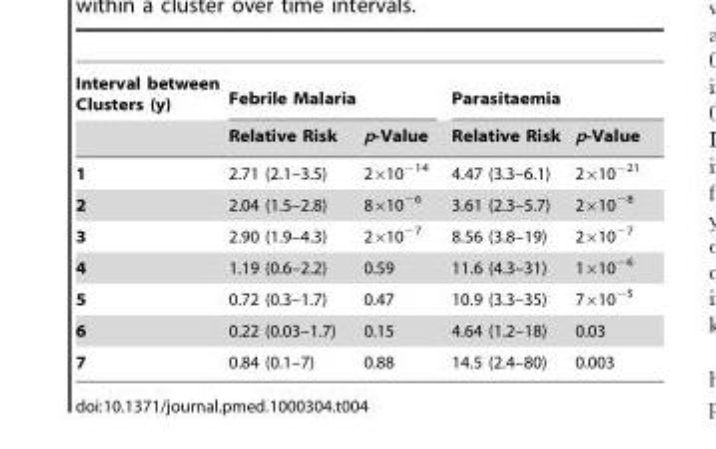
<table><thead><tr><td rowspan="2">Interval between Clusters (y)</td><td colspan="2">Febrile Malaria</td><td colspan="2">Parasitaemia</td></tr><tr><td>Relative Risk</td><td>p-Value</td><td>Relative Risk</td><td>p-Value</td></tr></thead><tbody><tr><td>1</td><td>2.71 (2.1–3.5)</td><td>2×10<sup>−14</sup></td><td>4.47 (3.3–6.1)</td><td>2×10<sup>−21</sup></td></tr><tr><td>2</td><td>2.04 (1.5–2.8)</td><td>8×10<sup>−6</sup></td><td>3.61 (2.3–5.7)</td><td>2×10<sup>−8</sup></td></tr><tr><td>3</td><td>2.90 (1.9–4.3)</td><td>2×10<sup>−7</sup></td><td>8.56 (3.8–19)</td><td>2×10<sup>−7</sup></td></tr><tr><td>4</td><td>1.19 (0.6–2.2)</td><td>0.59</td><td>11.6 (4.3–31)</td><td>1×10<sup>−6</sup></td></tr><tr><td>5</td><td>0.72 (0.3–1.7)</td><td>0.47</td><td>10.9 (3.3–35)</td><td>7×10<sup>−5</sup></td></tr><tr><td>6</td><td>0.22 (0.03–1.7)</td><td>0.15</td><td>4.64 (1.2–18)</td><td>0.03</td></tr><tr><td>7</td><td>0.84 (0.1–7)</td><td>0.88</td><td>14.5 (2.4–80)</td><td>0.003</td></tr></tbody></table>